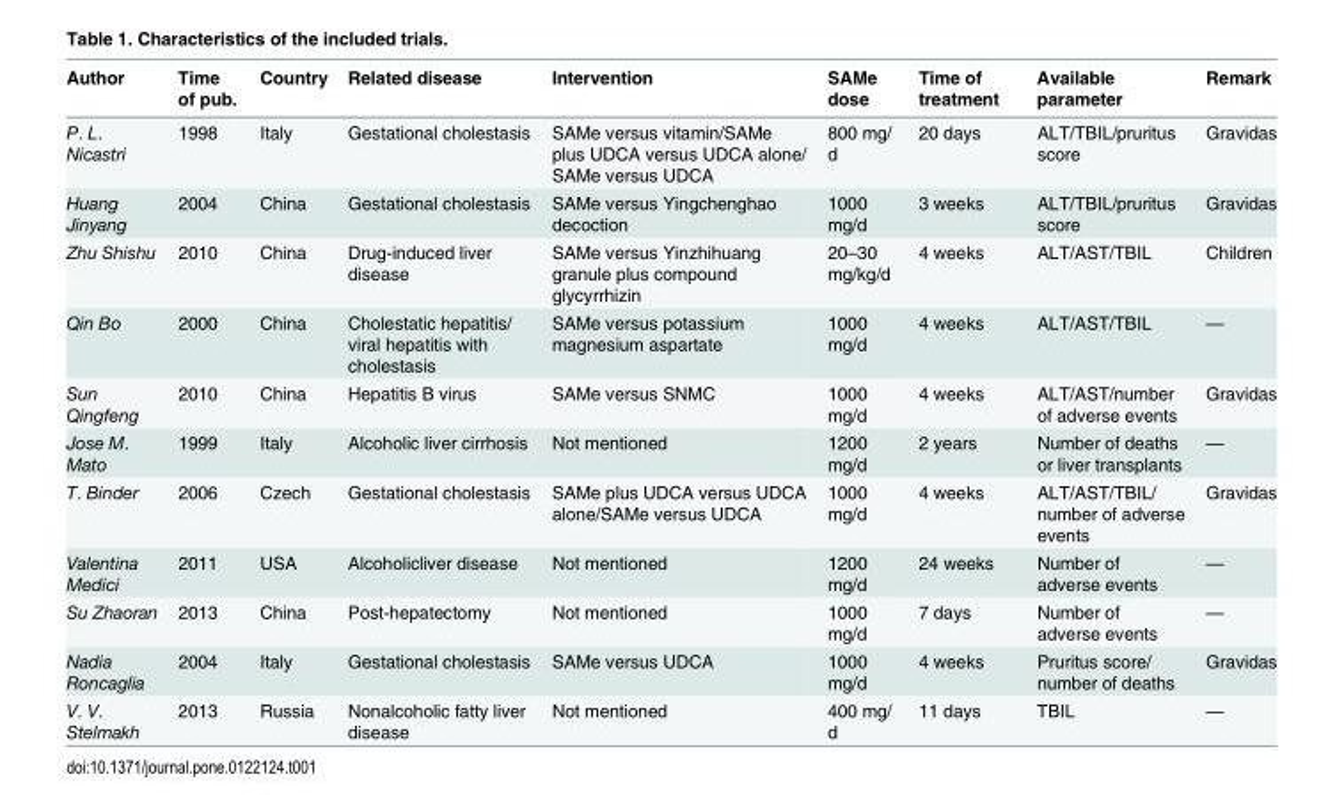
<table><thead><tr><td>Author</td><td>Time of pub.</td><td>Country</td><td>Related disease</td><td>Intervention</td><td>SAMe dose</td><td>Time of treatment</td><td>Available parameter</td><td>Remark</td></tr></thead><tbody><tr><td>P. L. Nicastri</td><td>1998</td><td>Italy</td><td>Gestational cholestasis</td><td>SAMe versus vitamin/SAMe plus UDCA versus UDCA alone/ SAMe versus UDCA</td><td>800 mg/ d</td><td>20 days</td><td>ALT/TBIL/pruritus score</td><td>Gravidas</td></tr><tr><td>Huang Jinyang</td><td>2004</td><td>China</td><td>Gestational cholestasis</td><td>SAMe versus Yingchenghao decoction</td><td>1000 mg/d</td><td>3 weeks</td><td>ALT/TBIL/pruritus score</td><td>Gravidas</td></tr><tr><td>Zhu Shishu</td><td>2010</td><td>China</td><td>Drug-induced liver disease</td><td>SAMe versus Yinzhihuang granule plus compound glycyrrhizin</td><td>20–30 mg/kg/d</td><td>4 weeks</td><td>ALT/AST/TBIL</td><td>Children</td></tr><tr><td>Qin Bo</td><td>2000</td><td>China</td><td>Cholestatic hepatitis/ viral hepatitis with cholestasis</td><td>SAMe versus potassium magnesium aspartate</td><td>1000 mg/d</td><td>4 weeks</td><td>ALT/AST/TBIL</td><td>—</td></tr><tr><td>Sun Qingfeng</td><td>2010</td><td>China</td><td>Hepatitis B virus</td><td>SAMe versus SNMC</td><td>1000 mg/d</td><td>4 weeks</td><td>ALT/AST/number of adverse events</td><td>Gravidas</td></tr><tr><td>Jose M. Mato</td><td>1999</td><td>Italy</td><td>Alcoholic liver cirrhosis</td><td>Not mentioned</td><td>1200 mg/d</td><td>2 years</td><td>Number of deaths or liver transplants</td><td>—</td></tr><tr><td>T. Binder</td><td>2006</td><td>Czech</td><td>Gestational cholestasis</td><td>SAMe plus UDCA versus UDCA alone/SAMe versus UDCA</td><td>1000 mg/d</td><td>4 weeks</td><td>ALT/AST/TBIL/ number of adverse events</td><td>Gravidas</td></tr><tr><td>Valentina Medici</td><td>2011</td><td>USA</td><td>Alcoholicliver disease</td><td>Not mentioned</td><td>1200 mg/d</td><td>24 weeks</td><td>Number of adverse events</td><td>—</td></tr><tr><td>Su Zhaoran</td><td>2013</td><td>China</td><td>Post-hepatectomy</td><td>Not mentioned</td><td>1000 mg/d</td><td>7 days</td><td>Number of adverse events</td><td>—</td></tr><tr><td>Nadia Roncaglia</td><td>2004</td><td>Italy</td><td>Gestational cholestasis</td><td>SAMe versus UDCA</td><td>1000 mg/d</td><td>4 weeks</td><td>Pruritus score/ number of deaths</td><td>Gravidas</td></tr><tr><td>V. V. Stelmakh</td><td>2013</td><td>Russia</td><td>Nonalcoholic fatty liver disease</td><td>Not mentioned</td><td>400 mg/ d</td><td>11 days</td><td>TBIL</td><td>—</td></tr></tbody></table>